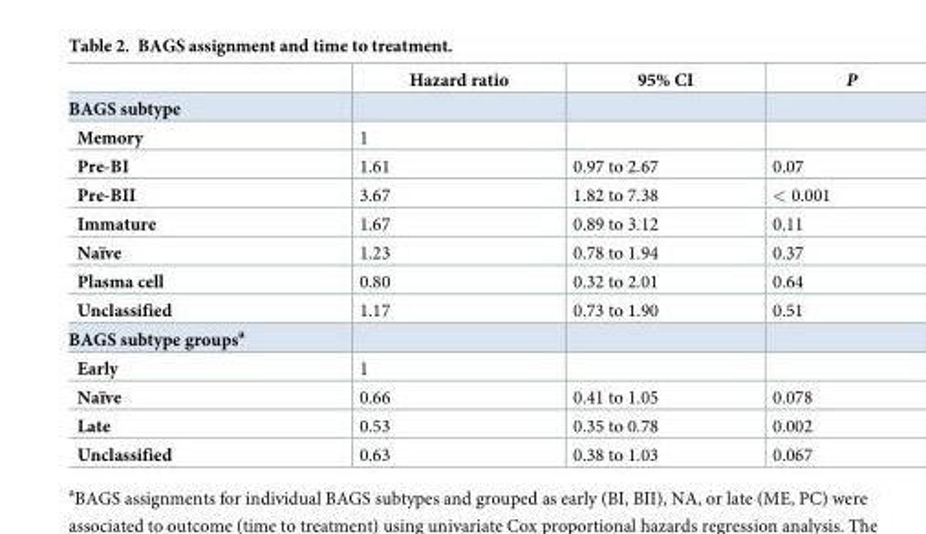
<table><thead><tr><td></td><td>Hazard ratio</td><td>95% CI</td><td>P</td></tr></thead><tbody><tr><td colspan="4">BAGS subtype</td></tr><tr><td>Memory</td><td>1</td><td></td><td></td></tr><tr><td>Pre-BI</td><td>1.61</td><td>0.97 to 2.67</td><td>0.07</td></tr><tr><td>Pre-BII</td><td>3.67</td><td>1.82 to 7.38</td><td>&lt; 0.001</td></tr><tr><td>Immature</td><td>1.67</td><td>0.89 to 3.12</td><td>0.11</td></tr><tr><td>Naïve</td><td>1.23</td><td>0.78 to 1.94</td><td>0.37</td></tr><tr><td>Plasma cell</td><td>0.80</td><td>0.32 to 2.01</td><td>0.64</td></tr><tr><td>Unclassified</td><td>1.17</td><td>0.73 to 1.90</td><td>0.51</td></tr><tr><td colspan="4">BAGS subtype groups<sup>a</sup></td></tr><tr><td>Early</td><td>1</td><td></td><td></td></tr><tr><td>Naïve</td><td>0.66</td><td>0.41 to 1.05</td><td>0.078</td></tr><tr><td>Late</td><td>0.53</td><td>0.35 to 0.78</td><td>0.002</td></tr><tr><td>Unclassified</td><td>0.63</td><td>0.38 to 1.03</td><td>0.067</td></tr></tbody></table>